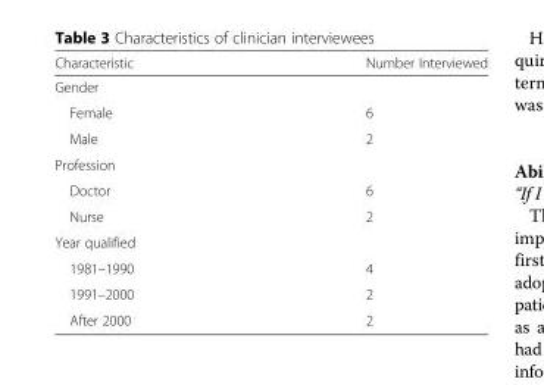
<table><thead><tr><td>Characteristic</td><td>Number Interviewed</td></tr></thead><tbody><tr><td colspan="2">Gender</td></tr><tr><td>Female</td><td>6</td></tr><tr><td>Male</td><td>2</td></tr><tr><td colspan="2">Profession</td></tr><tr><td>Doctor</td><td>6</td></tr><tr><td>Nurse</td><td>2</td></tr><tr><td colspan="2">Year qualified</td></tr><tr><td>1981–1990</td><td>4</td></tr><tr><td>1991–2000</td><td>2</td></tr><tr><td>After 2000</td><td>2</td></tr></tbody></table>